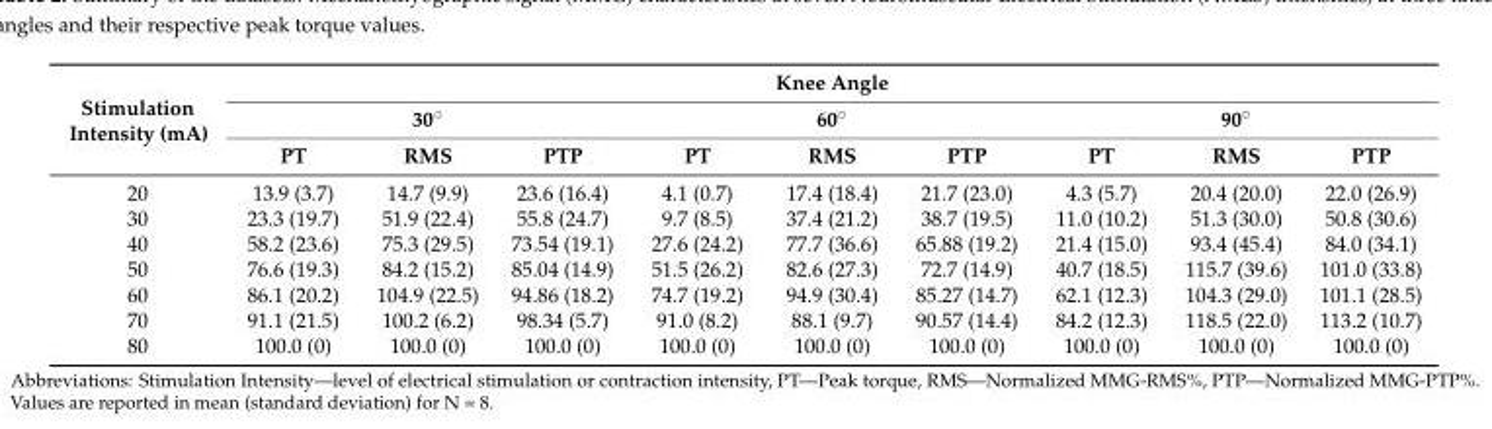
<table><thead><tr><td rowspan="3">Stimulation Intensity (mA)</td><td colspan="9">Knee Angle</td></tr><tr><td colspan="3">30˝</td><td colspan="3">60˝</td><td colspan="3">90˝</td></tr><tr><td>PT</td><td>RMS</td><td>PTP</td><td>PT</td><td>RMS</td><td>PTP</td><td>PT</td><td>RMS</td><td>PTP</td></tr></thead><tbody><tr><td>20</td><td>13.9 (3.7)</td><td>14.7 (9.9)</td><td>23.6 (16.4)</td><td>4.1 (0.7)</td><td>17.4 (18.4)</td><td>21.7 (23.0)</td><td>4.3 (5.7)</td><td>20.4 (20.0)</td><td>22.0 (26.9)</td></tr><tr><td>30</td><td>23.3 (19.7)</td><td>51.9 (22.4)</td><td>55.8 (24.7)</td><td>9.7 (8.5)</td><td>37.4 (21.2)</td><td>38.7 (19.5)</td><td>11.0 (10.2)</td><td>51.3 (30.0)</td><td>50.8 (30.6)</td></tr><tr><td>40</td><td>58.2 (23.6)</td><td>75.3 (29.5)</td><td>73.54 (19.1)</td><td>27.6 (24.2)</td><td>77.7 (36.6)</td><td>65.88 (19.2)</td><td>21.4 (15.0)</td><td>93.4 (45.4)</td><td>84.0 (34.1)</td></tr><tr><td>50</td><td>76.6 (19.3)</td><td>84.2 (15.2)</td><td>85.04 (14.9)</td><td>51.5 (26.2)</td><td>82.6 (27.3)</td><td>72.7 (14.9)</td><td>40.7 (18.5)</td><td>115.7 (39.6)</td><td>101.0 (33.8)</td></tr><tr><td>60</td><td>86.1 (20.2)</td><td>104.9 (22.5)</td><td>94.86 (18.2)</td><td>74.7 (19.2)</td><td>94.9 (30.4)</td><td>85.27 (14.7)</td><td>62.1 (12.3)</td><td>104.3 (29.0)</td><td>101.1 (28.5)</td></tr><tr><td>70</td><td>91.1 (21.5)</td><td>100.2 (6.2)</td><td>98.34 (5.7)</td><td>91.0 (8.2)</td><td>88.1 (9.7)</td><td>90.57 (14.4)</td><td>84.2 (12.3)</td><td>118.5 (22.0)</td><td>113.2 (10.7)</td></tr><tr><td>80</td><td>100.0 (0)</td><td>100.0 (0)</td><td>100.0 (0)</td><td>100.0 (0)</td><td>100.0 (0)</td><td>100.0 (0)</td><td>100.0 (0)</td><td>100.0 (0)</td><td>100.0 (0)</td></tr></tbody></table>